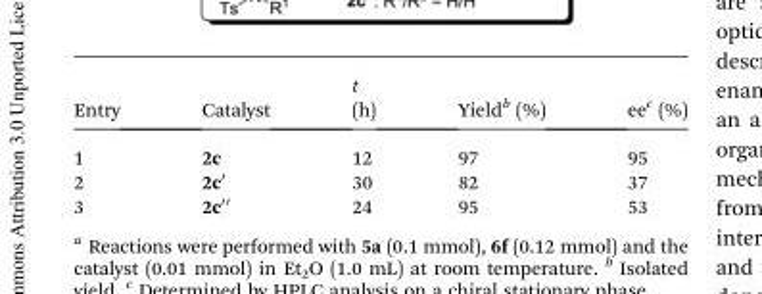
<table><thead><tr><td>Entry</td><td>Catalyst</td><td>t (h)</td><td>Yield<sup>b</sup> (%)</td><td>ee<sup>c</sup> (%)</td></tr></thead><tbody><tr><td>1</td><td>2c</td><td>12</td><td>97</td><td>95</td></tr><tr><td>2</td><td>2c′</td><td>30</td><td>82</td><td>37</td></tr><tr><td>3</td><td>2c′′</td><td>24</td><td>95</td><td>53</td></tr></tbody></table>